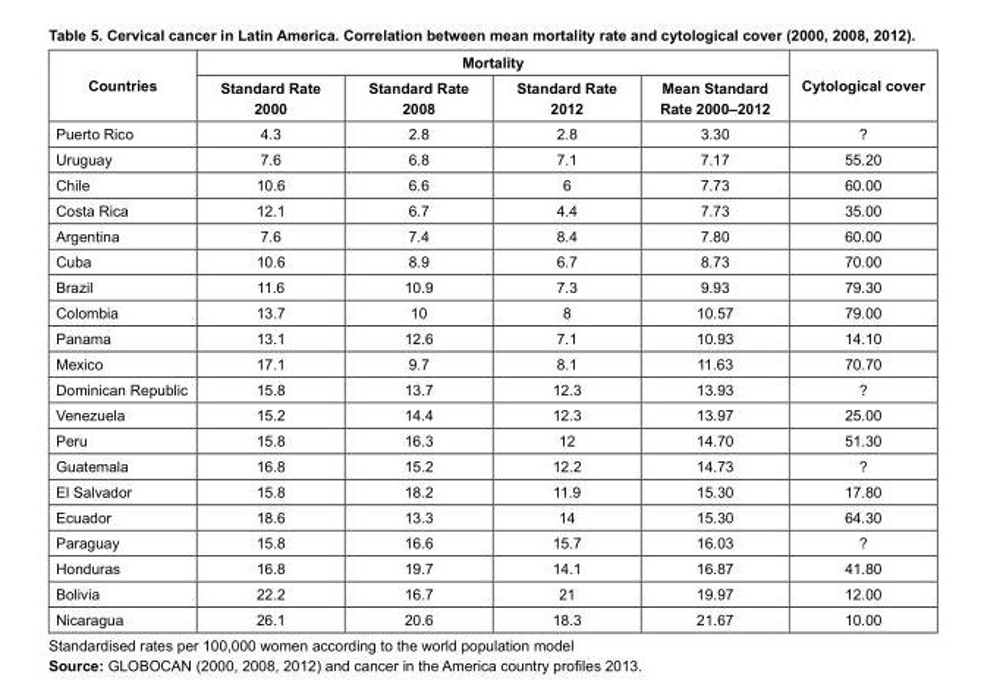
<table><thead><tr><td rowspan="2">Countries</td><td colspan="4">Mortality</td><td rowspan="2">Cytological cover</td></tr><tr><td>Standard Rate 2000</td><td>Standard Rate 2008</td><td>Standard Rate 2012</td><td>Mean Standard Rate 2000–2012</td></tr></thead><tbody><tr><td>Puerto Rico</td><td>4.3</td><td>2.8</td><td>2.8</td><td>3.30</td><td>?</td></tr><tr><td>Uruguay</td><td>7.6</td><td>6.8</td><td>7.1</td><td>7.17</td><td>55.20</td></tr><tr><td>Chile</td><td>10.6</td><td>6.6</td><td>6</td><td>7.73</td><td>60.00</td></tr><tr><td>Costa Rica</td><td>12.1</td><td>6.7</td><td>4.4</td><td>7.73</td><td>35.00</td></tr><tr><td>Argentina</td><td>7.6</td><td>7.4</td><td>8.4</td><td>7.80</td><td>60.00</td></tr><tr><td>Cuba</td><td>10.6</td><td>8.9</td><td>6.7</td><td>8.73</td><td>70.00</td></tr><tr><td>Brazil</td><td>11.6</td><td>10.9</td><td>7.3</td><td>9.93</td><td>79.30</td></tr><tr><td>Colombia</td><td>13.7</td><td>10</td><td>8</td><td>10.57</td><td>79.00</td></tr><tr><td>Panama</td><td>13.1</td><td>12.6</td><td>7.1</td><td>10.93</td><td>14.10</td></tr><tr><td>Mexico</td><td>17.1</td><td>9.7</td><td>8.1</td><td>11.63</td><td>70.70</td></tr><tr><td>Dominican Republic</td><td>15.8</td><td>13.7</td><td>12.3</td><td>13.93</td><td>?</td></tr><tr><td>Venezuela</td><td>15.2</td><td>14.4</td><td>12.3</td><td>13.97</td><td>25.00</td></tr><tr><td>Peru</td><td>15.8</td><td>16.3</td><td>12</td><td>14.70</td><td>51.30</td></tr><tr><td>Guatemala</td><td>16.8</td><td>15.2</td><td>12.2</td><td>14.73</td><td>?</td></tr><tr><td>El Salvador</td><td>15.8</td><td>18.2</td><td>11.9</td><td>15.30</td><td>17.80</td></tr><tr><td>Ecuador</td><td>18.6</td><td>13.3</td><td>14</td><td>15.30</td><td>64.30</td></tr><tr><td>Paraguay</td><td>15.8</td><td>16.6</td><td>15.7</td><td>16.03</td><td>?</td></tr><tr><td>Honduras</td><td>16.8</td><td>19.7</td><td>14.1</td><td>16.87</td><td>41.80</td></tr><tr><td>Bolivia</td><td>22.2</td><td>16.7</td><td>21</td><td>19.97</td><td>12.00</td></tr><tr><td>Nicaragua</td><td>26.1</td><td>20.6</td><td>18.3</td><td>21.67</td><td>10.00</td></tr></tbody></table>